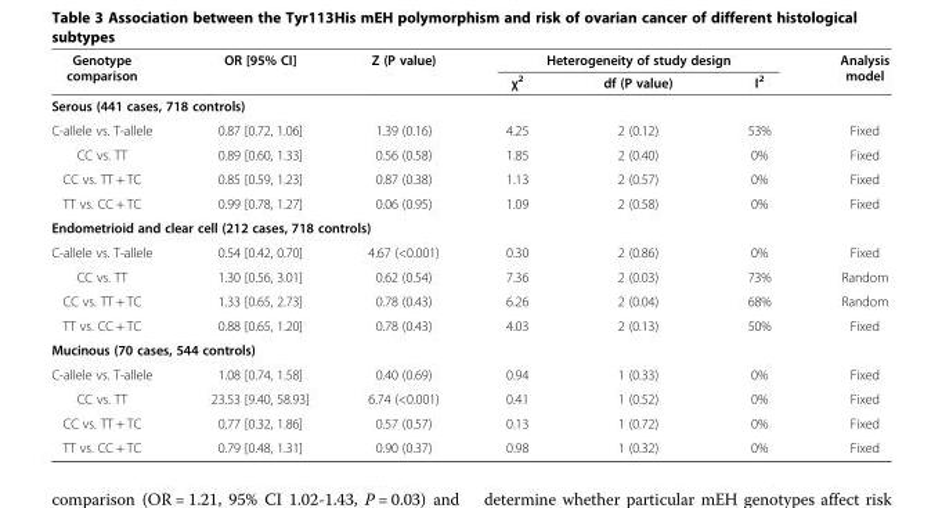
<table><thead><tr><td rowspan="2">Genotype comparison</td><td rowspan="2">OR [95% CI]</td><td rowspan="2">Z (P value)</td><td colspan="3">Heterogeneity of study design</td><td rowspan="2">Analysis model</td></tr><tr><td>χ<sup>2</sup></td><td>df (P value)</td><td>I<sup>2</sup></td></tr></thead><tbody><tr><td colspan="7">Serous (441 cases, 718 controls)</td></tr><tr><td>C-allele vs. T-allele</td><td>0.87 [0.72, 1.06]</td><td>1.39 (0.16)</td><td>4.25</td><td>2 (0.12)</td><td>53%</td><td>Fixed</td></tr><tr><td>CC vs. TT</td><td>0.89 [0.60, 1.33]</td><td>0.56 (0.58)</td><td>1.85</td><td>2 (0.40)</td><td>0%</td><td>Fixed</td></tr><tr><td>CC vs. TT + TC</td><td>0.85 [0.59, 1.23]</td><td>0.87 (0.38)</td><td>1.13</td><td>2 (0.57)</td><td>0%</td><td>Fixed</td></tr><tr><td>TT vs. CC + TC</td><td>0.99 [0.78, 1.27]</td><td>0.06 (0.95)</td><td>1.09</td><td>2 (0.58)</td><td>0%</td><td>Fixed</td></tr><tr><td colspan="7">Endometrioid and clear cell (212 cases, 718 controls)</td></tr><tr><td>C-allele vs. T-allele</td><td>0.54 [0.42, 0.70]</td><td>4.67 (&lt;0.001)</td><td>0.30</td><td>2 (0.86)</td><td>0%</td><td>Fixed</td></tr><tr><td>CC vs. TT</td><td>1.30 [0.56, 3.01]</td><td>0.62 (0.54)</td><td>7.36</td><td>2 (0.03)</td><td>73%</td><td>Random</td></tr><tr><td>CC vs. TT + TC</td><td>1.33 [0.65, 2.73]</td><td>0.78 (0.43)</td><td>6.26</td><td>2 (0.04)</td><td>68%</td><td>Random</td></tr><tr><td>TT vs. CC + TC</td><td>0.88 [0.65, 1.20]</td><td>0.78 (0.43)</td><td>4.03</td><td>2 (0.13)</td><td>50%</td><td>Fixed</td></tr><tr><td colspan="7">Mucinous (70 cases, 544 controls)</td></tr><tr><td>C-allele vs. T-allele</td><td>1.08 [0.74, 1.58]</td><td>0.40 (0.69)</td><td>0.94</td><td>1 (0.33)</td><td>0%</td><td>Fixed</td></tr><tr><td>CC vs. TT</td><td>23.53 [9.40, 58.93]</td><td>6.74 (&lt;0.001)</td><td>0.41</td><td>1 (0.52)</td><td>0%</td><td>Fixed</td></tr><tr><td>CC vs. TT + TC</td><td>0.77 [0.32, 1.86]</td><td>0.57 (0.57)</td><td>0.13</td><td>1 (0.72)</td><td>0%</td><td>Fixed</td></tr><tr><td>TT vs. CC + TC</td><td>0.79 [0.48, 1.31]</td><td>0.90 (0.37)</td><td>0.98</td><td>1 (0.32)</td><td>0%</td><td>Fixed</td></tr></tbody></table>